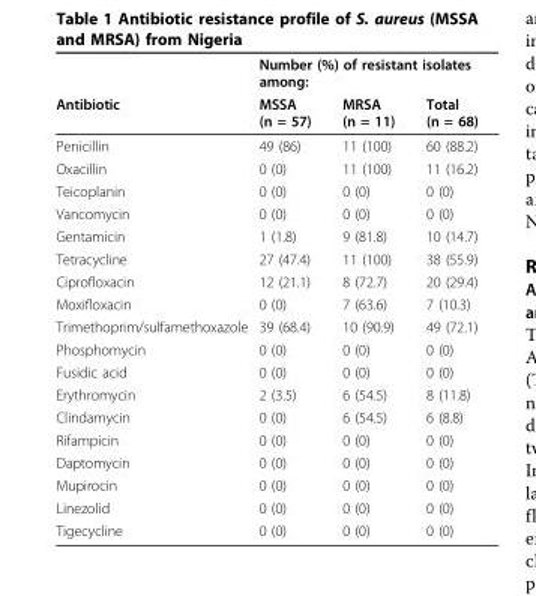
<table><thead><tr><td rowspan="2">Antibiotic</td><td colspan="3">Number (%) of resistant isolates among:</td></tr><tr><td>MSSA (n = 57)</td><td>MRSA (n = 11)</td><td>Total (n = 68)</td></tr></thead><tbody><tr><td>Penicillin</td><td>49 (86)</td><td>11 (100)</td><td>60 (88.2)</td></tr><tr><td>Oxacillin</td><td>0 (0)</td><td>11 (100)</td><td>11 (16.2)</td></tr><tr><td>Teicoplanin</td><td>0 (0)</td><td>0 (0)</td><td>0 (0)</td></tr><tr><td>Vancomycin</td><td>0 (0)</td><td>0 (0)</td><td>0 (0)</td></tr><tr><td>Gentamicin</td><td>1 (1.8)</td><td>9 (81.8)</td><td>10 (14.7)</td></tr><tr><td>Tetracycline</td><td>27 (47.4)</td><td>11 (100)</td><td>38 (55.9)</td></tr><tr><td>Ciprofloxacin</td><td>12 (21.1)</td><td>8 (72.7)</td><td>20 (29.4)</td></tr><tr><td>Moxifloxacin</td><td>0 (0)</td><td>7 (63.6)</td><td>7 (10.3)</td></tr><tr><td>Trimethoprim/sulfamethoxazole</td><td>39 (68.4)</td><td>10 (90.9)</td><td>49 (72.1)</td></tr><tr><td>Phosphomycin</td><td>0 (0)</td><td>0 (0)</td><td>0 (0)</td></tr><tr><td>Fusidic acid</td><td>0 (0)</td><td>0 (0)</td><td>0 (0)</td></tr><tr><td>Erythromycin</td><td>2 (3.5)</td><td>6 (54.5)</td><td>8 (11.8)</td></tr><tr><td>Clindamycin</td><td>0 (0)</td><td>6 (54.5)</td><td>6 (8.8)</td></tr><tr><td>Rifampicin</td><td>0 (0)</td><td>0 (0)</td><td>0 (0)</td></tr><tr><td>Daptomycin</td><td>0 (0)</td><td>0 (0)</td><td>0 (0)</td></tr><tr><td>Mupirocin</td><td>0 (0)</td><td>0 (0)</td><td>0 (0)</td></tr><tr><td>Linezolid</td><td>0 (0)</td><td>0 (0)</td><td>0 (0)</td></tr><tr><td>Tigecycline</td><td>0 (0)</td><td>0 (0)</td><td>0 (0)</td></tr></tbody></table>